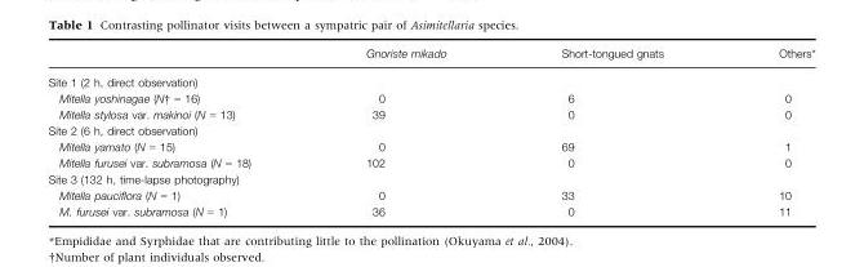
<table><thead><tr><td></td><td>Gnoriste mikado</td><td>Short-tongued gnats</td><td>Others*</td></tr></thead><tbody><tr><td colspan="4">Site 1 (2 h, direct observation)</td></tr><tr><td>Mitella yoshinagae (N† = 16)</td><td>0</td><td>6</td><td>0</td></tr><tr><td>Mitella stylosa var. makinoi (N = 13)</td><td>39</td><td>0</td><td>0</td></tr><tr><td colspan="4">Site 2 (6 h, direct observation)</td></tr><tr><td>Mitella yamato (N = 15)</td><td>0</td><td>69</td><td>1</td></tr><tr><td>Mitella furusei var. subramosa (N = 18)</td><td>102</td><td>0</td><td>0</td></tr><tr><td colspan="4">Site 3 (132 h, time-lapse photography)</td></tr><tr><td>Mitella pauciflora (N = 1)</td><td>0</td><td>33</td><td>10</td></tr><tr><td>M. furusei var. subramosa (N = 1)</td><td>36</td><td>0</td><td>11</td></tr></tbody></table>